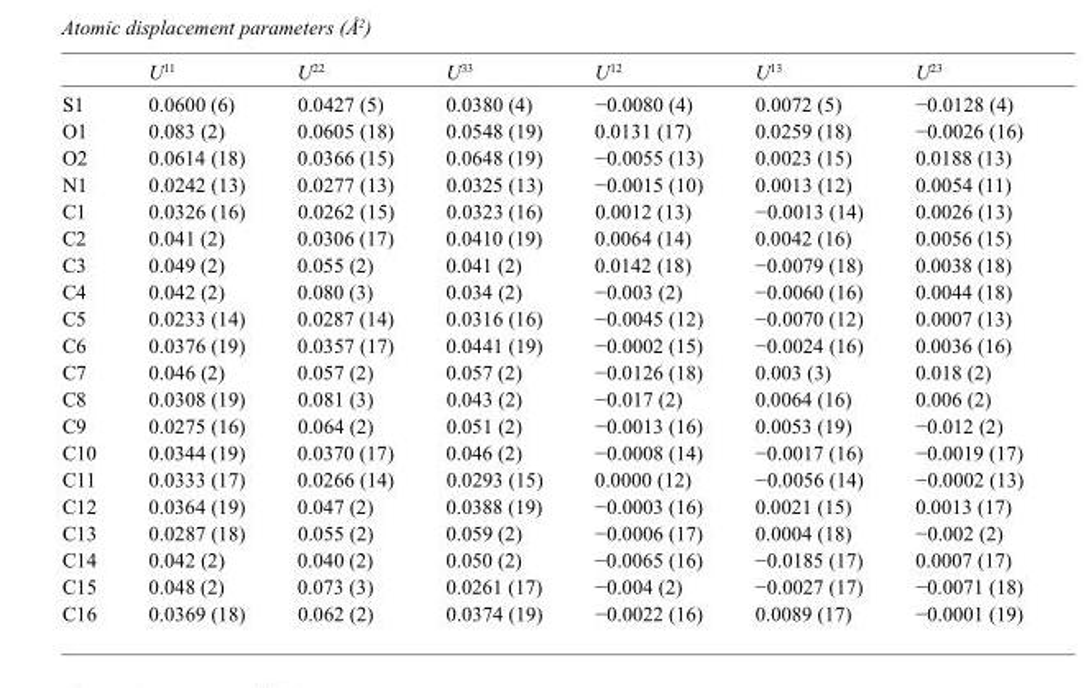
<table><thead><tr><td></td><td>U<sup>11</sup></td><td>U<sup>22</sup></td><td>U<sup>33</sup></td><td>U<sup>12</sup></td><td>U<sup>13</sup></td><td>U<sup>23</sup></td></tr></thead><tbody><tr><td>S1</td><td>0.0600 (6)</td><td>0.0427 (5)</td><td>0.0380 (4)</td><td>−0.0080 (4)</td><td>0.0072 (5)</td><td>−0.0128 (4)</td></tr><tr><td>O1</td><td>0.083 (2)</td><td>0.0605 (18)</td><td>0.0548 (19)</td><td>0.0131 (17)</td><td>0.0259 (18)</td><td>−0.0026 (16)</td></tr><tr><td>O2</td><td>0.0614 (18)</td><td>0.0366 (15)</td><td>0.0648 (19)</td><td>−0.0055 (13)</td><td>0.0023 (15)</td><td>0.0188 (13)</td></tr><tr><td>N1</td><td>0.0242 (13)</td><td>0.0277 (13)</td><td>0.0325 (13)</td><td>−0.0015 (10)</td><td>0.0013 (12)</td><td>0.0054 (11)</td></tr><tr><td>C1</td><td>0.0326 (16)</td><td>0.0262 (15)</td><td>0.0323 (16)</td><td>0.0012 (13)</td><td>−0.0013 (14)</td><td>0.0026 (13)</td></tr><tr><td>C2</td><td>0.041 (2)</td><td>0.0306 (17)</td><td>0.0410 (19)</td><td>0.0064 (14)</td><td>0.0042 (16)</td><td>0.0056 (15)</td></tr><tr><td>C3</td><td>0.049 (2)</td><td>0.055 (2)</td><td>0.041 (2)</td><td>0.0142 (18)</td><td>−0.0079 (18)</td><td>0.0038 (18)</td></tr><tr><td>C4</td><td>0.042 (2)</td><td>0.080 (3)</td><td>0.034 (2)</td><td>−0.003 (2)</td><td>−0.0060 (16)</td><td>0.0044 (18)</td></tr><tr><td>C5</td><td>0.0233 (14)</td><td>0.0287 (14)</td><td>0.0316 (16)</td><td>−0.0045 (12)</td><td>−0.0070 (12)</td><td>0.0007 (13)</td></tr><tr><td>C6</td><td>0.0376 (19)</td><td>0.0357 (17)</td><td>0.0441 (19)</td><td>−0.0002 (15)</td><td>−0.0024 (16)</td><td>0.0036 (16)</td></tr><tr><td>C7</td><td>0.046 (2)</td><td>0.057 (2)</td><td>0.057 (2)</td><td>−0.0126 (18)</td><td>0.003 (3)</td><td>0.018 (2)</td></tr><tr><td>C8</td><td>0.0308 (19)</td><td>0.081 (3)</td><td>0.043 (2)</td><td>−0.017 (2)</td><td>0.0064 (16)</td><td>0.006 (2)</td></tr><tr><td>C9</td><td>0.0275 (16)</td><td>0.064 (2)</td><td>0.051 (2)</td><td>−0.0013 (16)</td><td>0.0053 (19)</td><td>−0.012 (2)</td></tr><tr><td>C10</td><td>0.0344 (19)</td><td>0.0370 (17)</td><td>0.046 (2)</td><td>−0.0008 (14)</td><td>−0.0017 (16)</td><td>−0.0019 (17)</td></tr><tr><td>C11</td><td>0.0333 (17)</td><td>0.0266 (14)</td><td>0.0293 (15)</td><td>0.0000 (12)</td><td>−0.0056 (14)</td><td>−0.0002 (13)</td></tr><tr><td>C12</td><td>0.0364 (19)</td><td>0.047 (2)</td><td>0.0388 (19)</td><td>−0.0003 (16)</td><td>0.0021 (15)</td><td>0.0013 (17)</td></tr><tr><td>C13</td><td>0.0287 (18)</td><td>0.055 (2)</td><td>0.059 (2)</td><td>−0.0006 (17)</td><td>0.0004 (18)</td><td>−0.002 (2)</td></tr><tr><td>C14</td><td>0.042 (2)</td><td>0.040 (2)</td><td>0.050 (2)</td><td>−0.0065 (16)</td><td>−0.0185 (17)</td><td>0.0007 (17)</td></tr><tr><td>C15</td><td>0.048 (2)</td><td>0.073 (3)</td><td>0.0261 (17)</td><td>−0.004 (2)</td><td>−0.0027 (17)</td><td>−0.0071 (18)</td></tr><tr><td>C16</td><td>0.0369 (18)</td><td>0.062 (2)</td><td>0.0374 (19)</td><td>−0.0022 (16)</td><td>0.0089 (17)</td><td>−0.0001 (19)</td></tr></tbody></table>